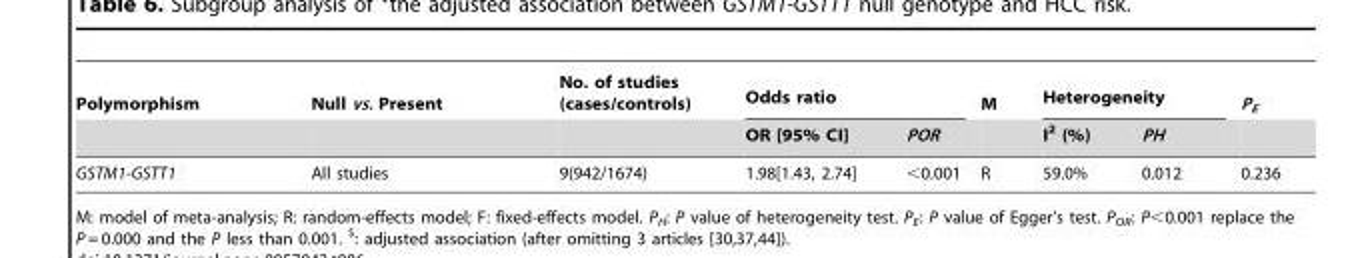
<table><thead><tr><td rowspan="2">Polymorphism</td><td rowspan="2">Null vs. Present</td><td rowspan="2">No. of studies (cases/controls)</td><td colspan="2">Odds ratio</td><td rowspan="2">M</td><td colspan="2">Heterogeneity</td><td rowspan="2">P<sub>E</sub></td></tr><tr><td>OR [95% CI]</td><td>POR</td><td>I<sup>2</sup> (%)</td><td>PH</td></tr></thead><tbody><tr><td>GSTM1-GSTT1</td><td>All studies</td><td>9(942/1674)</td><td>1.98[1.43, 2.74]</td><td>&lt;0.001</td><td>R</td><td>59.0%</td><td>0.012</td><td>0.236</td></tr></tbody></table>